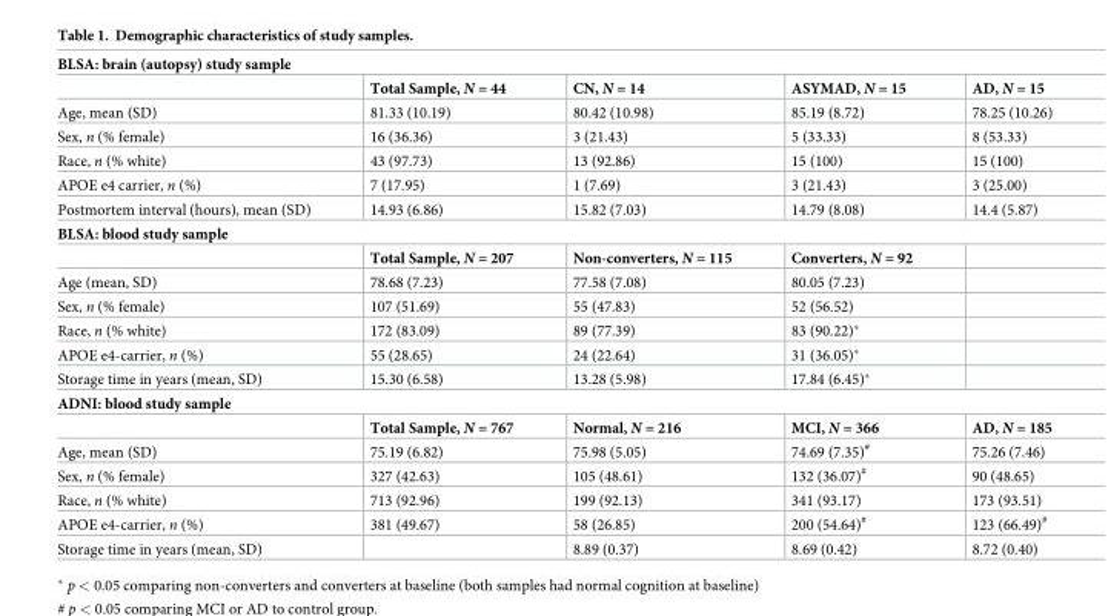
<table><tbody><tr><td colspan="5">BLSA: brain (autopsy) study sample</td></tr><tr><td></td><td>Total Sample, N = 44</td><td>CN, N = 14</td><td>ASYMAD, N = 15</td><td>AD, N = 15</td></tr><tr><td>Age, mean (SD)</td><td>81.33 (10.19)</td><td>80.42 (10.98)</td><td>85.19 (8.72)</td><td>78.25 (10.26)</td></tr><tr><td>Sex, n (% female)</td><td>16 (36.36)</td><td>3 (21.43)</td><td>5 (33.33)</td><td>8 (53.33)</td></tr><tr><td>Race, n (% white)</td><td>43 (97.73)</td><td>13 (92.86)</td><td>15 (100)</td><td>15 (100)</td></tr><tr><td>APOE e4 carrier, n (%)</td><td>7 (17.95)</td><td>1 (7.69)</td><td>3 (21.43)</td><td>3 (25.00)</td></tr><tr><td>Postmortem interval (hours), mean (SD)</td><td>14.93 (6.86)</td><td>15.82 (7.03)</td><td>14.79 (8.08)</td><td>14.4 (5.87)</td></tr><tr><td colspan="5">BLSA: blood study sample</td></tr><tr><td></td><td>Total Sample, N = 207</td><td>Non-converters, N = 115</td><td>Converters, N = 92</td><td></td></tr><tr><td>Age (mean, SD)</td><td>78.68 (7.23)</td><td>77.58 (7.08)</td><td>80.05 (7.23)</td><td></td></tr><tr><td>Sex, n (% female)</td><td>107 (51.69)</td><td>55 (47.83)</td><td>52 (56.52)</td><td></td></tr><tr><td>Race, n (% white)</td><td>172 (83.09)</td><td>89 (77.39)</td><td>83 (90.22)*</td><td></td></tr><tr><td>APOE e4-carrier, n (%)</td><td>55 (28.65)</td><td>24 (22.64)</td><td>31 (36.05)*</td><td></td></tr><tr><td>Storage time in years (mean, SD)</td><td>15.30 (6.58)</td><td>13.28 (5.98)</td><td>17.84 (6.45)*</td><td></td></tr><tr><td colspan="5">ADNI: blood study sample</td></tr><tr><td></td><td>Total Sample, N = 767</td><td>Normal, N = 216</td><td>MCI, N = 366</td><td>AD, N = 185</td></tr><tr><td>Age, mean (SD)</td><td>75.19 (6.82)</td><td>75.98 (5.05)</td><td>74.69 (7.35)<sup>#</sup></td><td>75.26 (7.46)</td></tr><tr><td>Sex, n (% female)</td><td>327 (42.63)</td><td>105 (48.61)</td><td>132 (36.07)<sup>#</sup></td><td>90 (48.65)</td></tr><tr><td>Race, n (% white)</td><td>713 (92.96)</td><td>199 (92.13)</td><td>341 (93.17)</td><td>173 (93.51)</td></tr><tr><td>APOE e4-carrier, n (%)</td><td>381 (49.67)</td><td>58 (26.85)</td><td>200 (54.64)<sup>#</sup></td><td>123 (66.49)<sup>#</sup></td></tr><tr><td>Storage time in years (mean, SD)</td><td></td><td>8.89 (0.37)</td><td>8.69 (0.42)</td><td>8.72 (0.40)</td></tr></tbody></table>